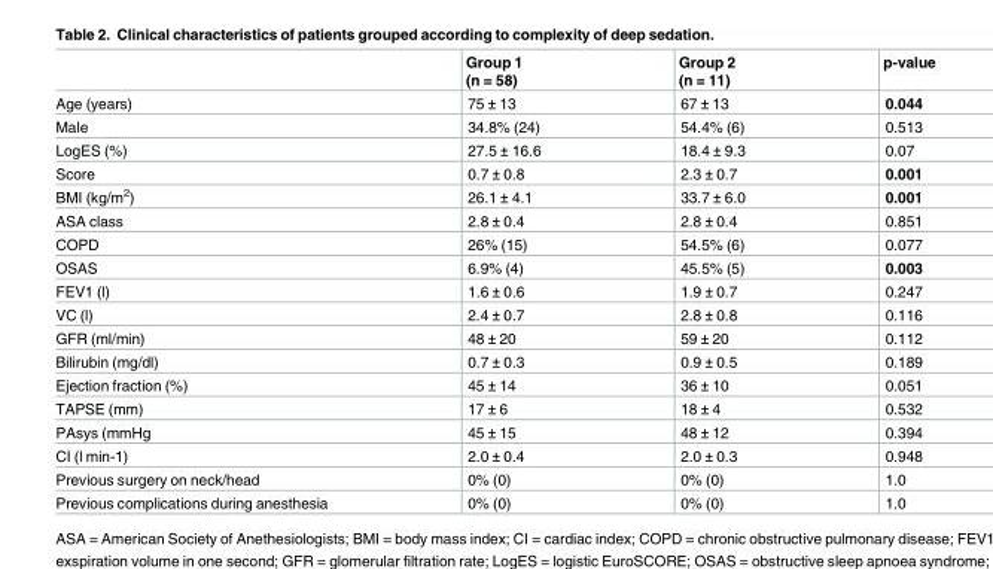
<table><thead><tr><td></td><td>Group 1 (n = 58)</td><td>Group 2 (n = 11)</td><td>p-value</td></tr></thead><tbody><tr><td>Age (years)</td><td>75 ± 13</td><td>67 ± 13</td><td>0.044</td></tr><tr><td>Male</td><td>34.8% (24)</td><td>54.4% (6)</td><td>0.513</td></tr><tr><td>LogES (%)</td><td>27.5 ± 16.6</td><td>18.4 ± 9.3</td><td>0.07</td></tr><tr><td>Score</td><td>0.7 ± 0.8</td><td>2.3 ± 0.7</td><td>0.001</td></tr><tr><td>BMI (kg/m<sup>2</sup>)</td><td>26.1 ± 4.1</td><td>33.7 ± 6.0</td><td>0.001</td></tr><tr><td>ASA class</td><td>2.8 ± 0.4</td><td>2.8 ± 0.4</td><td>0.851</td></tr><tr><td>COPD</td><td>26% (15)</td><td>54.5% (6)</td><td>0.077</td></tr><tr><td>OSAS</td><td>6.9% (4)</td><td>45.5% (5)</td><td>0.003</td></tr><tr><td>FEV1 (l)</td><td>1.6 ± 0.6</td><td>1.9 ± 0.7</td><td>0.247</td></tr><tr><td>VC (l)</td><td>2.4 ± 0.7</td><td>2.8 ± 0.8</td><td>0.116</td></tr><tr><td>GFR (ml/min)</td><td>48 ± 20</td><td>59 ± 20</td><td>0.112</td></tr><tr><td>Bilirubin (mg/dl)</td><td>0.7 ± 0.3</td><td>0.9 ± 0.5</td><td>0.189</td></tr><tr><td>Ejection fraction (%)</td><td>45 ± 14</td><td>36 ± 10</td><td>0.051</td></tr><tr><td>TAPSE (mm)</td><td>17 ± 6</td><td>18 ± 4</td><td>0.532</td></tr><tr><td>PAsys (mmHg</td><td>45 ± 15</td><td>48 ± 12</td><td>0.394</td></tr><tr><td>CI (l min-1)</td><td>2.0 ± 0.4</td><td>2.0 ± 0.3</td><td>0.948</td></tr><tr><td>Previous surgery on neck/head</td><td>0% (0)</td><td>0% (0)</td><td>1.0</td></tr><tr><td>Previous complications during anesthesia</td><td>0% (0)</td><td>0% (0)</td><td>1.0</td></tr></tbody></table>